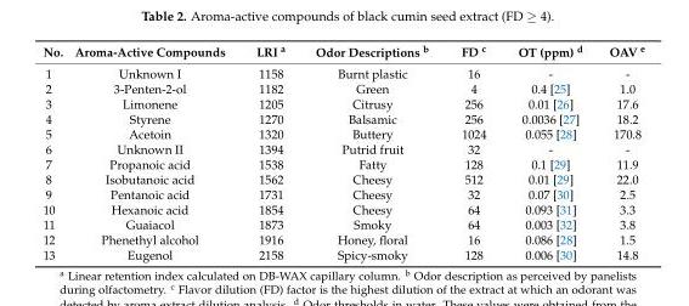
<table><thead><tr><td>No.</td><td>Aroma-Active Compounds</td><td>LRI <sup>a</sup></td><td>Odor Descriptions <sup>b</sup></td><td>FD <sup>c</sup></td><td>OT (ppm) <sup>d</sup></td><td>OAV <sup>e</sup></td></tr></thead><tbody><tr><td>1</td><td>Unknown I</td><td>1158</td><td>Burnt plastic</td><td>16</td><td>-</td><td>-</td></tr><tr><td>2</td><td>3-Penten-2-ol</td><td>1182</td><td>Green</td><td>4</td><td>0.4 [25]</td><td>1.0</td></tr><tr><td>3</td><td>Limonene</td><td>1205</td><td>Citrusy</td><td>256</td><td>0.01 [26]</td><td>17.6</td></tr><tr><td>4</td><td>Styrene</td><td>1270</td><td>Balsamic</td><td>256</td><td>0.0036 [27]</td><td>18.2</td></tr><tr><td>5</td><td>Acetoin</td><td>1320</td><td>Buttery</td><td>1024</td><td>0.055 [28]</td><td>170.8</td></tr><tr><td>6</td><td>Unknown II</td><td>1394</td><td>Putrid fruit</td><td>32</td><td>-</td><td>-</td></tr><tr><td>7</td><td>Propanoic acid</td><td>1538</td><td>Fatty</td><td>128</td><td>0.1 [29]</td><td>11.9</td></tr><tr><td>8</td><td>Isobutanoic acid</td><td>1562</td><td>Cheesy</td><td>512</td><td>0.01 [29]</td><td>22.0</td></tr><tr><td>9</td><td>Pentanoic acid</td><td>1731</td><td>Cheesy</td><td>32</td><td>0.07 [30]</td><td>2.5</td></tr><tr><td>10</td><td>Hexanoic acid</td><td>1854</td><td>Cheesy</td><td>64</td><td>0.093 [31]</td><td>3.3</td></tr><tr><td>11</td><td>Guaiacol</td><td>1873</td><td>Smoky</td><td>64</td><td>0.003 [32]</td><td>3.8</td></tr><tr><td>12</td><td>Phenethyl alcohol</td><td>1916</td><td>Honey, floral</td><td>16</td><td>0.086 [28]</td><td>1.5</td></tr><tr><td>13</td><td>Eugenol</td><td>2158</td><td>Spicy-smoky</td><td>128</td><td>0.006 [30]</td><td>14.8</td></tr></tbody></table>